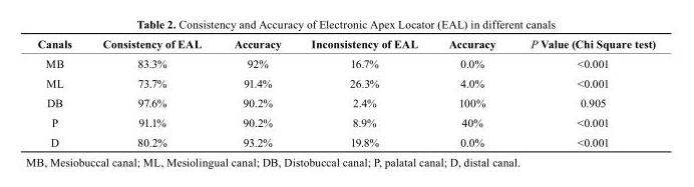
<table><thead><tr><td>canals</td><td>consistency of EAL</td><td>Accuracy</td><td>Inconsistency of EAL</td><td>Accuracy</td><td>P Value (chi square test)</td></tr></thead><tbody><tr><td>MB</td><td>83.3%</td><td>92%</td><td>16.7%</td><td>0.0%</td><td>&lt;0.001</td></tr><tr><td>ML</td><td>73.7%</td><td>91.4%</td><td>26.3%</td><td>4.0%</td><td>&lt;0.001</td></tr><tr><td>DB</td><td>97.6%</td><td>90.2%</td><td>2.4%</td><td>100%</td><td>0.905</td></tr><tr><td>P</td><td>91.1%</td><td>90.2%</td><td>8.9%</td><td>40%</td><td>&lt;0.001</td></tr><tr><td>D</td><td>80.2%</td><td>93.2%</td><td>19.8%</td><td>0.0%</td><td>&lt;0.001</td></tr></tbody></table>